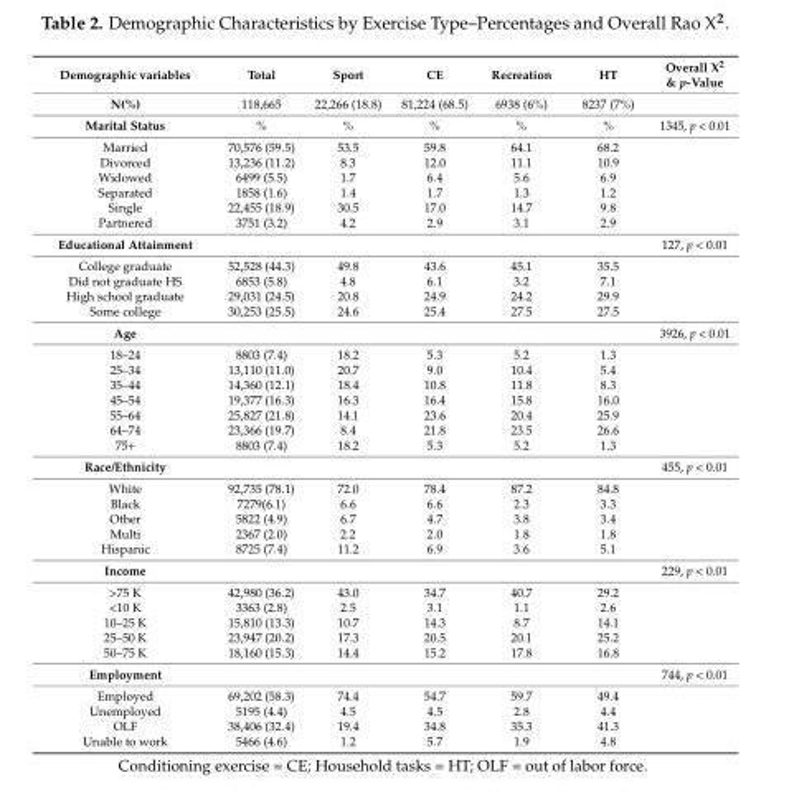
<table><thead><tr><td>Demographic variables</td><td>Total</td><td>Sport</td><td>CE</td><td>Recreation</td><td>HT</td><td>Overall X<sup>2</sup> &amp; p-Value</td></tr></thead><tbody><tr><td>N(%)</td><td>118,665</td><td>22,266 (18.8)</td><td>81,224 (68.5)</td><td>6938 (6%)</td><td>8237 (7%)</td><td></td></tr><tr><td>Marital Status</td><td>%</td><td>%</td><td>%</td><td>%</td><td>%</td><td>1345, p &lt; 0.01</td></tr><tr><td>Married</td><td>70,576 (59.5)</td><td>53.5</td><td>59.8</td><td>64.1</td><td>68.2</td><td></td></tr><tr><td>Divorced</td><td>13,236 (11.2)</td><td>8.3</td><td>12.0</td><td>11.1</td><td>10.9</td><td></td></tr><tr><td>Widowed</td><td>6499 (5.5)</td><td>1.7</td><td>6.4</td><td>5.6</td><td>6.9</td><td></td></tr><tr><td>Separated</td><td>1858 (1.6)</td><td>1.4</td><td>1.7</td><td>1.3</td><td>1.2</td><td></td></tr><tr><td>Single</td><td>22,455 (18.9)</td><td>30.5</td><td>17.0</td><td>14.7</td><td>9.8</td><td></td></tr><tr><td>Partnered</td><td>3751 (3.2)</td><td>4.2</td><td>2.9</td><td>3.1</td><td>2.9</td><td></td></tr><tr><td>Educational Attainment</td><td></td><td></td><td></td><td></td><td></td><td>127, p &lt; 0.01</td></tr><tr><td>College graduate</td><td>52,528 (44.3)</td><td>49.8</td><td>43.6</td><td>45.1</td><td>35.5</td><td></td></tr><tr><td>Did not graduate HS</td><td>6853 (5.8)</td><td>4.8</td><td>6.1</td><td>3.2</td><td>7.1</td><td></td></tr><tr><td>High school graduate</td><td>29,031 (24.5)</td><td>20.8</td><td>24.9</td><td>24.2</td><td>29.9</td><td></td></tr><tr><td>Some college</td><td>30,253 (25.5)</td><td>24.6</td><td>25.4</td><td>27.5</td><td>27.5</td><td></td></tr><tr><td>Age</td><td></td><td></td><td></td><td></td><td></td><td>3926, p &lt; 0.01</td></tr><tr><td>18–24</td><td>8803 (7.4)</td><td>18.2</td><td>5.3</td><td>5.2</td><td>1.3</td><td></td></tr><tr><td>25–34</td><td>13,110 (11.0)</td><td>20.7</td><td>9.0</td><td>10.4</td><td>5.4</td><td></td></tr><tr><td>35–44</td><td>14,360 (12.1)</td><td>18.4</td><td>10.8</td><td>11.8</td><td>8.3</td><td></td></tr><tr><td>45–54</td><td>19,377 (16.3)</td><td>16.3</td><td>16.4</td><td>15.8</td><td>16.0</td><td></td></tr><tr><td>55–64</td><td>25,827 (21.8)</td><td>14.1</td><td>23.6</td><td>20.4</td><td>25.9</td><td></td></tr><tr><td>64–74</td><td>23,366 (19.7)</td><td>8.4</td><td>21.8</td><td>23.5</td><td>26.6</td><td></td></tr><tr><td>75+</td><td>8803 (7.4)</td><td>18.2</td><td>5.3</td><td>5.2</td><td>1.3</td><td></td></tr><tr><td>Race/Ethnicity</td><td></td><td></td><td></td><td></td><td></td><td>455, p &lt; 0.01</td></tr><tr><td>White</td><td>92,735 (78.1)</td><td>72.0</td><td>78.4</td><td>87.2</td><td>84.8</td><td></td></tr><tr><td>Black</td><td>7279(6.1)</td><td>6.6</td><td>6.6</td><td>2.3</td><td>3.3</td><td></td></tr><tr><td>Other</td><td>5822 (4.9)</td><td>6.7</td><td>4.7</td><td>3.8</td><td>3.4</td><td></td></tr><tr><td>Multi</td><td>2367 (2.0)</td><td>2.2</td><td>2.0</td><td>1.8</td><td>1.8</td><td></td></tr><tr><td>Hispanic</td><td>8725 (7.4)</td><td>11.2</td><td>6.9</td><td>3.6</td><td>5.1</td><td></td></tr><tr><td>Income</td><td></td><td></td><td></td><td></td><td></td><td>229, p &lt; 0.01</td></tr><tr><td>&gt;75 K</td><td>42,980 (36.2)</td><td>43.0</td><td>34.7</td><td>40.7</td><td>29.2</td><td></td></tr><tr><td>&lt;10 K</td><td>3363 (2.8)</td><td>2.5</td><td>3.1</td><td>1.1</td><td>2.6</td><td></td></tr><tr><td>10–25 K</td><td>15,810 (13.3)</td><td>10.7</td><td>14.3</td><td>8.7</td><td>14.1</td><td></td></tr><tr><td>25–50 K</td><td>23,947 (20.2)</td><td>17.3</td><td>20.5</td><td>20.1</td><td>25.2</td><td></td></tr><tr><td>50–75 K</td><td>18,160 (15.3)</td><td>14.4</td><td>15.2</td><td>17.8</td><td>16.8</td><td></td></tr><tr><td>Employment</td><td></td><td></td><td></td><td></td><td></td><td>744, p &lt; 0.01</td></tr><tr><td>Employed</td><td>69,202 (58.3)</td><td>74.4</td><td>54.7</td><td>59.7</td><td>49.4</td><td></td></tr><tr><td>Unemployed</td><td>5195 (4.4)</td><td>4.5</td><td>4.5</td><td>2.8</td><td>4.4</td><td></td></tr><tr><td>OLF</td><td>38,406 (32.4)</td><td>19.4</td><td>34.8</td><td>35.3</td><td>41.3</td><td></td></tr><tr><td>Unable to work</td><td>5466 (4.6)</td><td>1.2</td><td>5.7</td><td>1.9</td><td>4.8</td><td></td></tr></tbody></table>